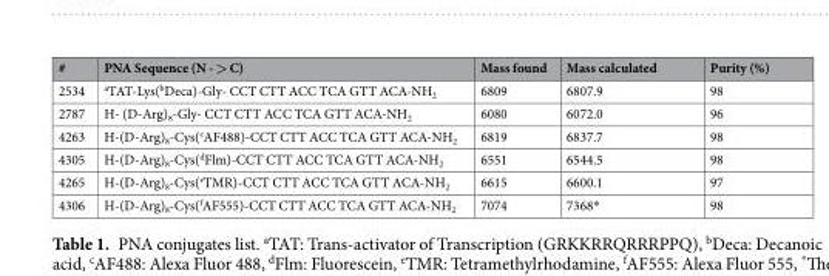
<table><thead><tr><td>#</td><td>PNA Sequence (N - &gt; C)</td><td>Mass found</td><td>Mass calculated</td><td>Purity (%)</td></tr></thead><tbody><tr><td>2534</td><td><sup>a</sup>TAT-Lys(<sup>b</sup>Deca)-Gly- CCT CTT ACC TCA GTT ACA-NH<sub>2</sub></td><td>6809</td><td>6807.9</td><td>98</td></tr><tr><td>2787</td><td>H- (D-Arg)<sub>8</sub>-Gly- CCT CTT ACC TCA GTT ACA-NH<sub>2</sub></td><td>6080</td><td>6072.0</td><td>96</td></tr><tr><td>4263</td><td>H-(D-Arg)<sub>8</sub>-Cys(<sup>c</sup>AF488)-CCT CTT ACC TCA GTT ACA-NH<sub>2</sub></td><td>6819</td><td>6837.7</td><td>98</td></tr><tr><td>4305</td><td>H-(D-Arg)<sub>8</sub>-Cys(<sup>d</sup>Flm)-CCT CTT ACC TCA GTT ACA-NH<sub>2</sub></td><td>6551</td><td>6544.5</td><td>98</td></tr><tr><td>4265</td><td>H-(D-Arg)<sub>8</sub>-Cys(<sup>e</sup>TMR)-CCT CTT ACC TCA GTT ACA-NH<sub>2</sub></td><td>6615</td><td>6600.1</td><td>97</td></tr><tr><td>4306</td><td>H-(D-Arg)<sub>8</sub>-Cys(<sup>f</sup>AF555)-CCT CTT ACC TCA GTT ACA-NH<sub>2</sub></td><td>7074</td><td>7368*</td><td>98</td></tr></tbody></table>